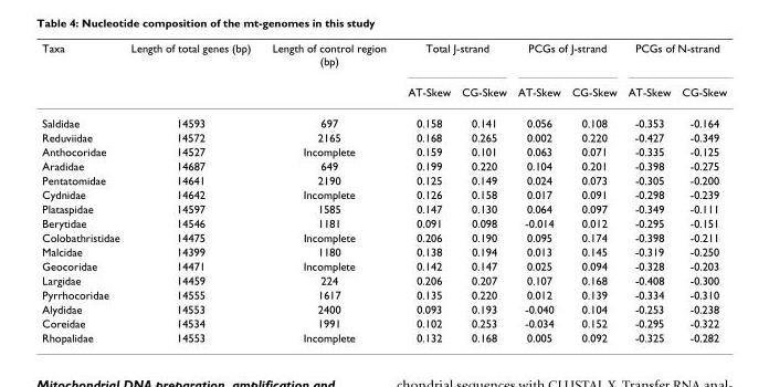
<table><thead><tr><td rowspan="2">Taxa</td><td rowspan="2">Length of total genes (bp)</td><td rowspan="2">Length of control region (bp)</td><td colspan="2">Total J-strand</td><td colspan="2">PCGs of J-strand</td><td colspan="2">PCGs of N-strand</td></tr><tr><td>AT-Skew</td><td>CG-Skew</td><td>AT-Skew</td><td>CG-Skew</td><td>AT-Skew</td><td>CG-Skew</td></tr></thead><tbody><tr><td>Saldidae</td><td>14593</td><td>697</td><td>0.158</td><td>0.141</td><td>0.056</td><td>0.108</td><td>-0.353</td><td>-0.164</td></tr><tr><td>Reduviidae</td><td>14572</td><td>2165</td><td>0.168</td><td>0.265</td><td>0.002</td><td>0.220</td><td>-0.427</td><td>-0.349</td></tr><tr><td>Anthocoridae</td><td>14527</td><td>Incomplete</td><td>0.159</td><td>0.101</td><td>0.063</td><td>0.071</td><td>-0.335</td><td>-0.125</td></tr><tr><td>Aradidae</td><td>14687</td><td>649</td><td>0.199</td><td>0.220</td><td>0.104</td><td>0.201</td><td>-0.398</td><td>-0.275</td></tr><tr><td>Pentatomidae</td><td>14641</td><td>2190</td><td>0.125</td><td>0.149</td><td>0.024</td><td>0.073</td><td>-0.305</td><td>-0.200</td></tr><tr><td>Cydnidae</td><td>14642</td><td>Incomplete</td><td>0.126</td><td>0.158</td><td>0.017</td><td>0.091</td><td>-0.298</td><td>-0.239</td></tr><tr><td>Plataspidae</td><td>14597</td><td>1585</td><td>0.147</td><td>0.130</td><td>0.064</td><td>0.097</td><td>-0.349</td><td>-0.111</td></tr><tr><td>Berytidae</td><td>14546</td><td>1181</td><td>0.091</td><td>0.098</td><td>-0.014</td><td>0.012</td><td>-0.295</td><td>-0.151</td></tr><tr><td>Colobathristidae</td><td>14475</td><td>Incomplete</td><td>0.206</td><td>0.190</td><td>0.095</td><td>0.174</td><td>-0.398</td><td>-0.211</td></tr><tr><td>Malcidae</td><td>14399</td><td>1180</td><td>0.138</td><td>0.194</td><td>0.013</td><td>0.145</td><td>-0.319</td><td>-0.250</td></tr><tr><td>Geocoridae</td><td>14471</td><td>Incomplete</td><td>0.142</td><td>0.147</td><td>0.025</td><td>0.094</td><td>-0.328</td><td>-0.203</td></tr><tr><td>Largidae</td><td>14459</td><td>224</td><td>0.206</td><td>0.207</td><td>0.107</td><td>0.168</td><td>-0.408</td><td>-0.300</td></tr><tr><td>Pyrrhocoridae</td><td>14555</td><td>1617</td><td>0.135</td><td>0.220</td><td>0.012</td><td>0.139</td><td>-0.334</td><td>-0.310</td></tr><tr><td>Alydidae</td><td>14553</td><td>2400</td><td>0.093</td><td>0.193</td><td>-0.040</td><td>0.104</td><td>-0.253</td><td>-0.238</td></tr><tr><td>Coreidae</td><td>14534</td><td>1991</td><td>0.102</td><td>0.253</td><td>-0.034</td><td>0.152</td><td>-0.295</td><td>-0.322</td></tr><tr><td>Rhopalidae</td><td>14553</td><td>Incomplete</td><td>0.132</td><td>0.168</td><td>0.005</td><td>0.092</td><td>-0.325</td><td>-0.282</td></tr></tbody></table>